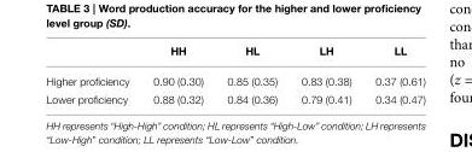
<table><thead><tr><td></td><td>HH</td><td>HL</td><td>LH</td><td>LL</td></tr></thead><tbody><tr><td>Higher proficiency</td><td>0.90 (0.30)</td><td>0.85 (0.35)</td><td>0.83 (0.38)</td><td>0.37 (0.61)</td></tr><tr><td>Lower proficiency</td><td>0.88 (0.32)</td><td>0.84 (0.36)</td><td>0.79 (0.41)</td><td>0.34 (0.47)</td></tr></tbody></table>